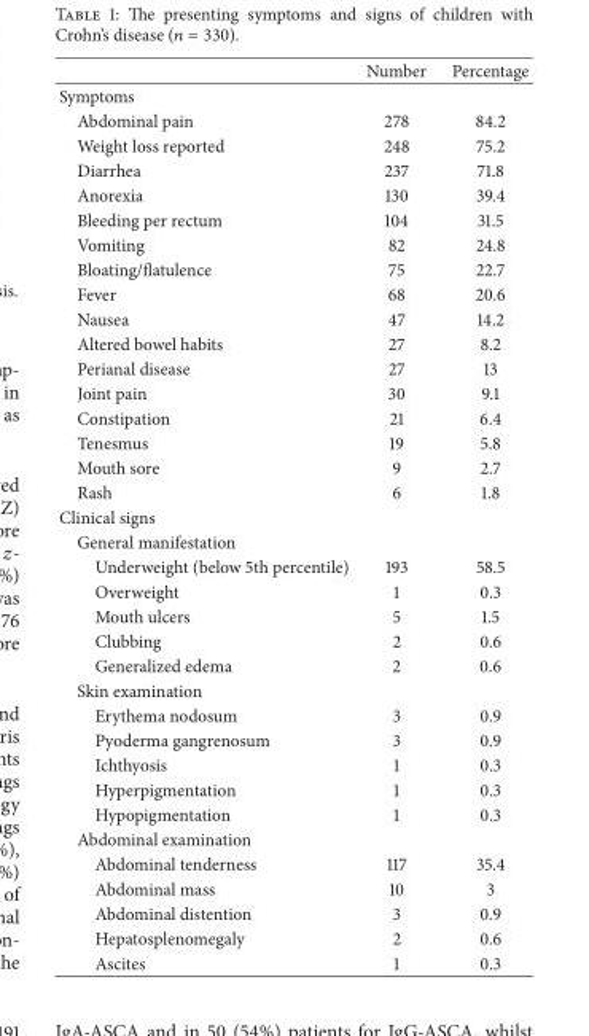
<table><thead><tr><td></td><td>Number</td><td>Percentage</td></tr></thead><tbody><tr><td colspan="3">Symptoms</td></tr><tr><td>Abdominal pain</td><td>278</td><td>84.2</td></tr><tr><td>Weight loss reported</td><td>248</td><td>75.2</td></tr><tr><td>Diarrhea</td><td>237</td><td>71.8</td></tr><tr><td>Anorexia</td><td>130</td><td>39.4</td></tr><tr><td>Bleeding per rectum</td><td>104</td><td>31.5</td></tr><tr><td>Vomiting</td><td>82</td><td>24.8</td></tr><tr><td>Bloating/flatulence</td><td>75</td><td>22.7</td></tr><tr><td>Fever</td><td>68</td><td>20.6</td></tr><tr><td>Nausea</td><td>47</td><td>14.2</td></tr><tr><td>Altered bowel habits</td><td>27</td><td>8.2</td></tr><tr><td>Perianal disease</td><td>27</td><td>13</td></tr><tr><td>Joint pain</td><td>30</td><td>9.1</td></tr><tr><td>Constipation</td><td>21</td><td>6.4</td></tr><tr><td>Tenesmus</td><td>19</td><td>5.8</td></tr><tr><td>Mouth sore</td><td>9</td><td>2.7</td></tr><tr><td>Rash</td><td>6</td><td>1.8</td></tr><tr><td colspan="3">Clinical signs</td></tr><tr><td colspan="3">General manifestation</td></tr><tr><td>Underweight (below 5th percentile)</td><td>193</td><td>58.5</td></tr><tr><td>Overweight</td><td>1</td><td>0.3</td></tr><tr><td>Mouth ulcers</td><td>5</td><td>1.5</td></tr><tr><td>Clubbing</td><td>2</td><td>0.6</td></tr><tr><td>Generalized edema</td><td>2</td><td>0.6</td></tr><tr><td colspan="3">Skin examination</td></tr><tr><td>Erythema nodosum</td><td>3</td><td>0.9</td></tr><tr><td>Pyoderma gangrenosum</td><td>3</td><td>0.9</td></tr><tr><td>Ichthyosis</td><td>1</td><td>0.3</td></tr><tr><td>Hyperpigmentation</td><td>1</td><td>0.3</td></tr><tr><td>Hypopigmentation</td><td>1</td><td>0.3</td></tr><tr><td colspan="3">Abdominal examination</td></tr><tr><td>Abdominal tenderness</td><td>117</td><td>35.4</td></tr><tr><td>Abdominal mass</td><td>10</td><td>3</td></tr><tr><td>Abdominal distention</td><td>3</td><td>0.9</td></tr><tr><td>Hepatosplenomegaly</td><td>2</td><td>0.6</td></tr><tr><td>Ascites</td><td>1</td><td>0.3</td></tr></tbody></table>